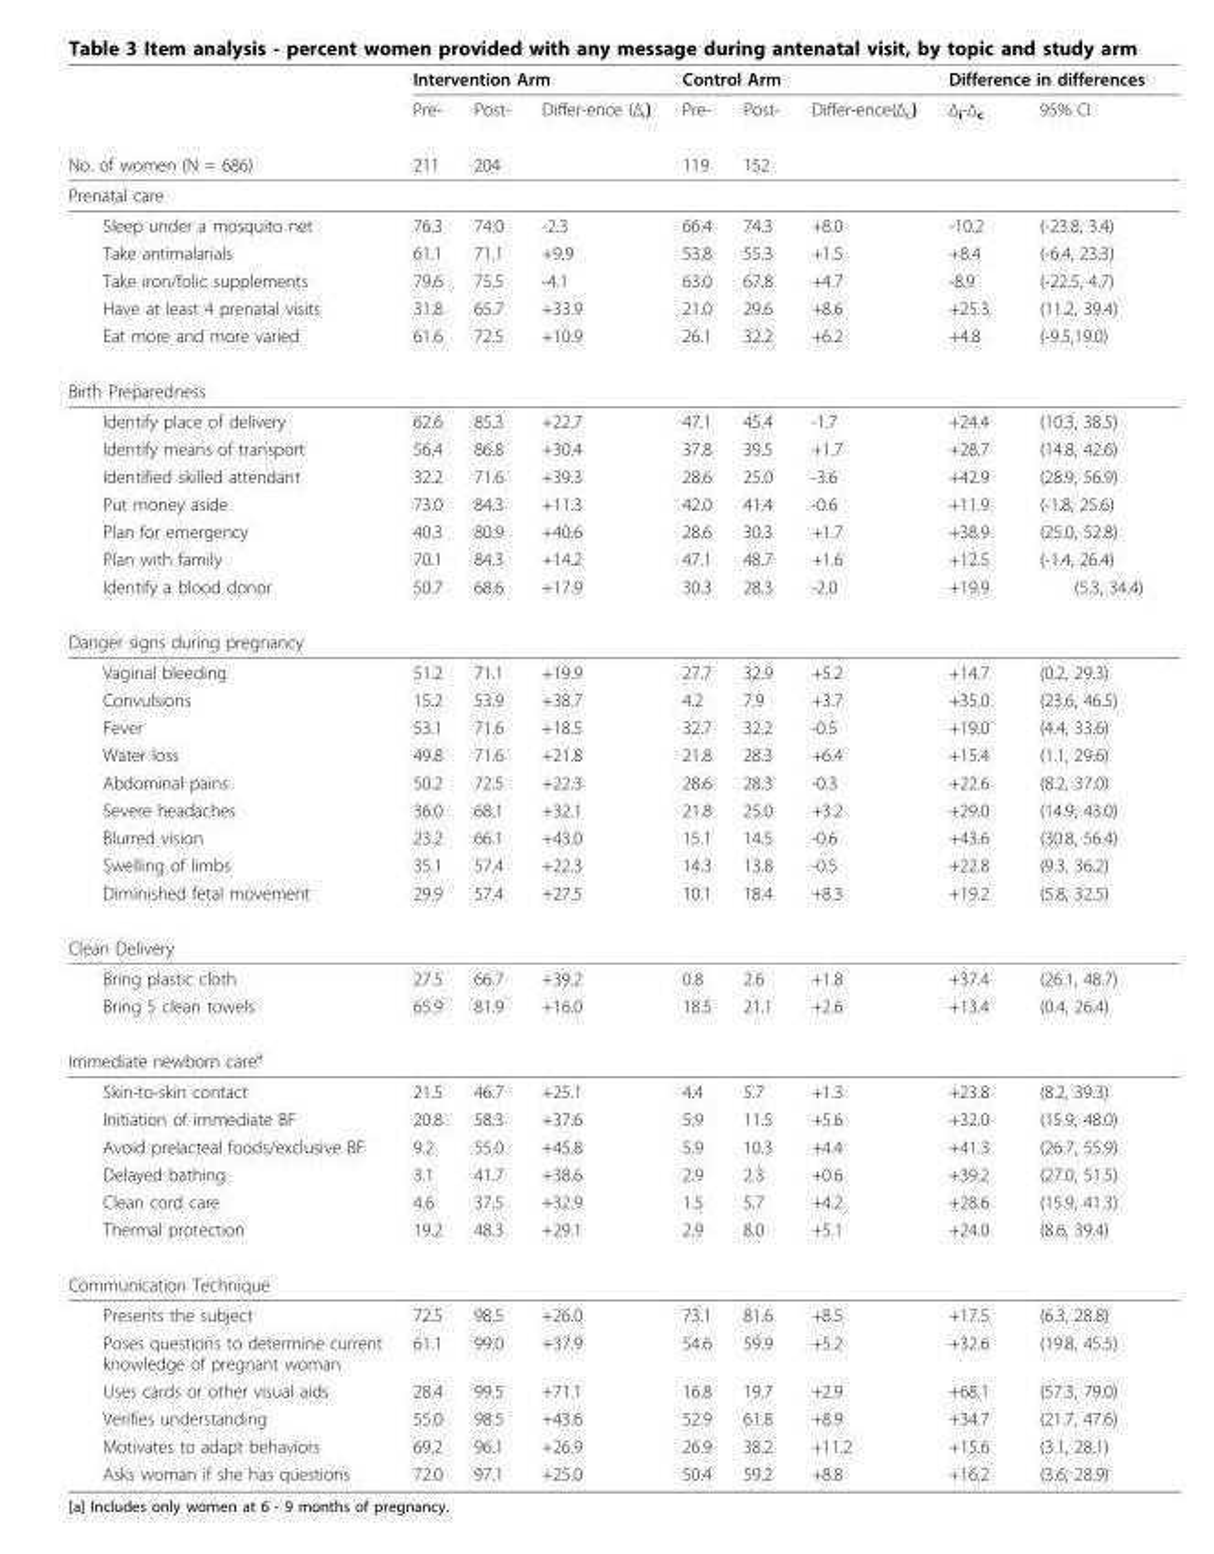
<table><thead><tr><td rowspan="3">No. of women (N = 686)</td><td colspan="3">Intervention Arm</td><td colspan="3">Control Arm</td><td colspan="2">Difference in differences</td></tr><tr><td rowspan="2">Pre- 211</td><td rowspan="2">Post- 204</td><td rowspan="2">Differ-ence (Δi)</td><td rowspan="2">Pre- 119</td><td rowspan="2">Post- 152</td><td rowspan="2">Differ-ence(Δc)</td><td rowspan="2">Δi-Δc</td><td rowspan="2">95% CI</td></tr><tr></tr></thead><tbody><tr><td colspan="9">Prenatal care</td></tr><tr><td>Sleep under a mosquito net</td><td>76.3</td><td>74.0</td><td>-2.3</td><td>66.4</td><td>74.3</td><td>+8.0</td><td>-10.2</td><td>(-23.8, 3.4)</td></tr><tr><td>Take antimalarials</td><td>61.1</td><td>71.1</td><td>+9.9</td><td>53.8</td><td>55.3</td><td>+1.5</td><td>+8.4</td><td>(-6.4, 23.3)</td></tr><tr><td>Take iron/folic supplements</td><td>79.6</td><td>75.5</td><td>-4.1</td><td>63.0</td><td>67.8</td><td>+4.7</td><td>-8.9</td><td>(-22.5, 4.7)</td></tr><tr><td>Have at least 4 prenatal visits</td><td>31.8</td><td>65.7</td><td>+33.9</td><td>21.0</td><td>29.6</td><td>+8.6</td><td>+25.3</td><td>(11.2, 39.4)</td></tr><tr><td>Eat more and more varied</td><td>61.6</td><td>72.5</td><td>+10.9</td><td>26.1</td><td>32.2</td><td>+6.2</td><td>+4.8</td><td>(-9.5,19.0)</td></tr><tr><td colspan="9">Birth Preparedness</td></tr><tr><td>Identify place of delivery</td><td>62.6</td><td>85.3</td><td>+22.7</td><td>47.1</td><td>45.4</td><td>-1.7</td><td>+24.4</td><td>(10.3, 38.5)</td></tr><tr><td>Identify means of transport</td><td>56.4</td><td>86.8</td><td>+30.4</td><td>37.8</td><td>39.5</td><td>+1.7</td><td>+28.7</td><td>(14.8, 42.6)</td></tr><tr><td>Identified skilled attendant</td><td>32.2</td><td>71.6</td><td>+39.3</td><td>28.6</td><td>25.0</td><td>-3.6</td><td>+42.9</td><td>(28.9, 56.9)</td></tr><tr><td>Put money aside</td><td>73.0</td><td>84.3</td><td>+11.3</td><td>42.0</td><td>41.4</td><td>-0.6</td><td>+11.9</td><td>(-1.8, 25.6)</td></tr><tr><td>Plan for emergency</td><td>40.3</td><td>80.9</td><td>+40.6</td><td>28.6</td><td>30.3</td><td>+1.7</td><td>+38.9</td><td>(25.0, 52.8)</td></tr><tr><td>Plan with family</td><td>70.1</td><td>84.3</td><td>+14.2</td><td>47.1</td><td>48.7</td><td>+1.6</td><td>+12.5</td><td>(-1.4, 26.4)</td></tr><tr><td>Identify a blood donor</td><td>50.7</td><td>68.6</td><td>+17.9</td><td>30.3</td><td>28.3</td><td>-2.0</td><td>+19.9</td><td>(5.3, 34.4)</td></tr><tr><td colspan="9">Danger signs during pregnancy</td></tr><tr><td>Vaginal bleeding</td><td>51.2</td><td>71.1</td><td>+19.9</td><td>27.7</td><td>32.9</td><td>+5.2</td><td>+14.7</td><td>(0.2, 29.3)</td></tr><tr><td>Convulsions</td><td>15.2</td><td>53.9</td><td>+38.7</td><td>4.2</td><td>7.9</td><td>+3.7</td><td>+35.0</td><td>(23.6, 46.5)</td></tr><tr><td>Fever</td><td>53.1</td><td>71.6</td><td>+18.5</td><td>32.7</td><td>32.2</td><td>-0.5</td><td>+19.0</td><td>(4.4, 33.6)</td></tr><tr><td>Water loss</td><td>49.8</td><td>71.6</td><td>+21.8</td><td>21.8</td><td>28.3</td><td>+6.4</td><td>+15.4</td><td>(1.1, 29.6)</td></tr><tr><td>Abdominal pains</td><td>50.2</td><td>72.5</td><td>+22.3</td><td>28.6</td><td>28.3</td><td>-0.3</td><td>+22.6</td><td>(8.2, 37.0)</td></tr><tr><td>Severe headaches</td><td>36.0</td><td>68.1</td><td>+32.1</td><td>21.8</td><td>25.0</td><td>+3.2</td><td>+29.0</td><td>(14.9, 43.0)</td></tr><tr><td>Blurred vision</td><td>23.2</td><td>66.1</td><td>+43.0</td><td>15.1</td><td>14.5</td><td>-0.6</td><td>+43.6</td><td>(30.8, 56.4)</td></tr><tr><td>Swelling of limbs</td><td>35.1</td><td>57.4</td><td>+22.3</td><td>14.3</td><td>13.8</td><td>-0.5</td><td>+22.8</td><td>(9.3, 36.2)</td></tr><tr><td>Diminished fetal movement</td><td>29.9</td><td>57.4</td><td>+27.5</td><td>10.1</td><td>18.4</td><td>+8.3</td><td>+19.2</td><td>(5.8, 32.5)</td></tr><tr><td colspan="9">Clean Delivery</td></tr><tr><td>Bring plastic cloth</td><td>27.5</td><td>66.7</td><td>+39.2</td><td>0.8</td><td>2.6</td><td>+1.8</td><td>+37.4</td><td>(26.1, 48.7)</td></tr><tr><td>Bring 5 clean towels</td><td>65.9</td><td>81.9</td><td>+16.0</td><td>18.5</td><td>21.1</td><td>+2.6</td><td>+13.4</td><td>(0.4, 26.4)</td></tr><tr><td colspan="9">Immediate newborn care<sup>a</sup></td></tr><tr><td>Skin-to-skin contact</td><td>21.5</td><td>46.7</td><td>+25.1</td><td>4.4</td><td>5.7</td><td>+1.3</td><td>+23.8</td><td>(8.2, 39.3)</td></tr><tr><td>Initiation of immediate BF</td><td>20.8</td><td>58.3</td><td>+37.6</td><td>5.9</td><td>11.5</td><td>+5.6</td><td>+32.0</td><td>(15.9, 48.0)</td></tr><tr><td>Avoid prelacteal foods/exclusive BF</td><td>9.2</td><td>55.0</td><td>+45.8</td><td>5.9</td><td>10.3</td><td>+4.4</td><td>+41.3</td><td>(26.7, 55.9)</td></tr><tr><td>Delayed bathing</td><td>3.1</td><td>41.7</td><td>+38.6</td><td>2.9</td><td>2.3</td><td>+0.6</td><td>+39.2</td><td>(27.0, 51.5)</td></tr><tr><td>Clean cord care</td><td>4.6</td><td>37.5</td><td>+32.9</td><td>1.5</td><td>5.7</td><td>+4.2</td><td>+28.6</td><td>(15.9, 41.3)</td></tr><tr><td>Thermal protection</td><td>19.2</td><td>48.3</td><td>+29.1</td><td>2.9</td><td>8.0</td><td>+5.1</td><td>+24.0</td><td>(8.6, 39.4)</td></tr><tr><td colspan="9">Communication Technique</td></tr><tr><td>Presents the subject</td><td>72.5</td><td>98.5</td><td>+26.0</td><td>73.1</td><td>81.6</td><td>+8.5</td><td>+17.5</td><td>(6.3, 28.8)</td></tr><tr><td>Poses questions to determine current knowledge of pregnant woman</td><td>61.1</td><td>99.0</td><td>+37.9</td><td>54.6</td><td>59.9</td><td>+5.2</td><td>+32.6</td><td>(19.8, 45.5)</td></tr><tr><td>Uses cards or other visual aids</td><td>28.4</td><td>99.5</td><td>+71.1</td><td>16.8</td><td>19.7</td><td>+2.9</td><td>+68.1</td><td>(57.3, 79.0)</td></tr><tr><td>Verifies understanding</td><td>55.0</td><td>98.5</td><td>+43.6</td><td>52.9</td><td>61.8</td><td>+8.9</td><td>+34.7</td><td>(21.7, 47.6)</td></tr><tr><td>Motivates to adapt behaviors</td><td>69.2</td><td>96.1</td><td>+26.9</td><td>26.9</td><td>38.2</td><td>+11.2</td><td>+15.6</td><td>(3.1, 28.1)</td></tr><tr><td>Asks woman if she has questions</td><td>72.0</td><td>97.1</td><td>+25.0</td><td>50.4</td><td>59.2</td><td>+8.8</td><td>+16.2</td><td>(3.6, 28.9)</td></tr></tbody></table>